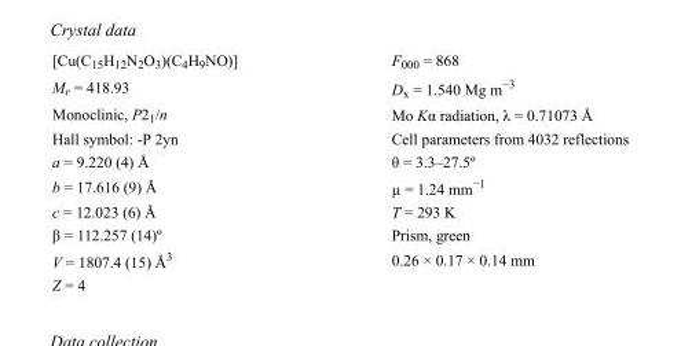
<table><tbody><tr><td>[Cu(C<sub>15</sub>H<sub>12</sub>N<sub>2</sub>O<sub>3</sub>)(C<sub>4</sub>H<sub>9</sub>NO)]</td><td>F000 = 868</td></tr><tr><td>M<sub>r</sub> = 418.93</td><td>D<sub>x</sub> = 1.540 Mg m<sup>−3</sup></td></tr><tr><td>Monoclinic, P2<sub>1</sub>/n</td><td>Mo Kα radiation, λ = 0.71073 Å</td></tr><tr><td>Hall symbol: -P 2yn</td><td>Cell parameters from 4032 reflections</td></tr><tr><td>a = 9.220 (4) Å</td><td>θ = 3.3–27.5º</td></tr><tr><td>b = 17.616 (9) Å</td><td>µ = 1.24 mm<sup>−1</sup></td></tr><tr><td>c = 12.023 (6) Å</td><td>T = 293 K</td></tr><tr><td>β = 112.257 (14)º</td><td>Prism, green</td></tr><tr><td>V = 1807.4 (15) Å<sup>3</sup></td><td>0.26 × 0.17 × 0.14 mm</td></tr><tr><td>Z = 4</td><td></td></tr></tbody></table>